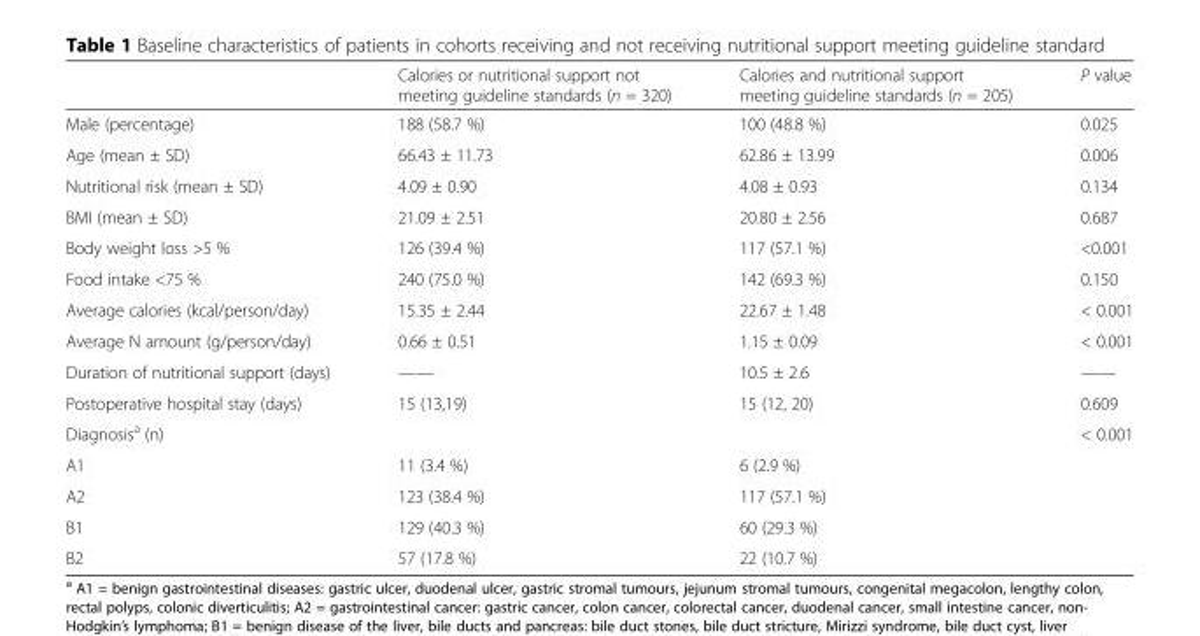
<table><thead><tr><td></td><td>Calories or nutritional support not meeting guideline standards (n = 320)</td><td>Calories and nutritional support meeting guideline standards (n = 205)</td><td>P value</td></tr></thead><tbody><tr><td>Male (percentage)</td><td>188 (58.7 %)</td><td>100 (48.8 %)</td><td>0.025</td></tr><tr><td>Age (mean ± SD)</td><td>66.43 ± 11.73</td><td>62.86 ± 13.99</td><td>0.006</td></tr><tr><td>Nutritional risk (mean ± SD)</td><td>4.09 ± 0.90</td><td>4.08 ± 0.93</td><td>0.134</td></tr><tr><td>BMI (mean ± SD)</td><td>21.09 ± 2.51</td><td>20.80 ± 2.56</td><td>0.687</td></tr><tr><td>Body weight loss &gt;5 %</td><td>126 (39.4 %)</td><td>117 (57.1 %)</td><td>&lt;0.001</td></tr><tr><td>Food intake &lt;75 %</td><td>240 (75.0 %)</td><td>142 (69.3 %)</td><td>0.150</td></tr><tr><td>Average calories (kcal/person/day)</td><td>15.35 ± 2.44</td><td>22.67 ± 1.48</td><td>&lt; 0.001</td></tr><tr><td>Average N amount (g/person/day)</td><td>0.66 ± 0.51</td><td>1.15 ± 0.09</td><td>&lt; 0.001</td></tr><tr><td>Duration of nutritional support (days)</td><td>——</td><td>10.5 ± 2.6</td><td>——</td></tr><tr><td>Postoperative hospital stay (days)</td><td>15 (13,19)</td><td>15 (12, 20)</td><td>0.609</td></tr><tr><td>Diagnosis<sup>a</sup> (n)</td><td></td><td></td><td>&lt; 0.001</td></tr><tr><td>A1</td><td>11 (3.4 %)</td><td>6 (2.9 %)</td><td></td></tr><tr><td>A2</td><td>123 (38.4 %)</td><td>117 (57.1 %)</td><td></td></tr><tr><td>B1</td><td>129 (40.3 %)</td><td>60 (29.3 %)</td><td></td></tr><tr><td>B2</td><td>57 (17.8 %)</td><td>22 (10.7 %)</td><td></td></tr></tbody></table>